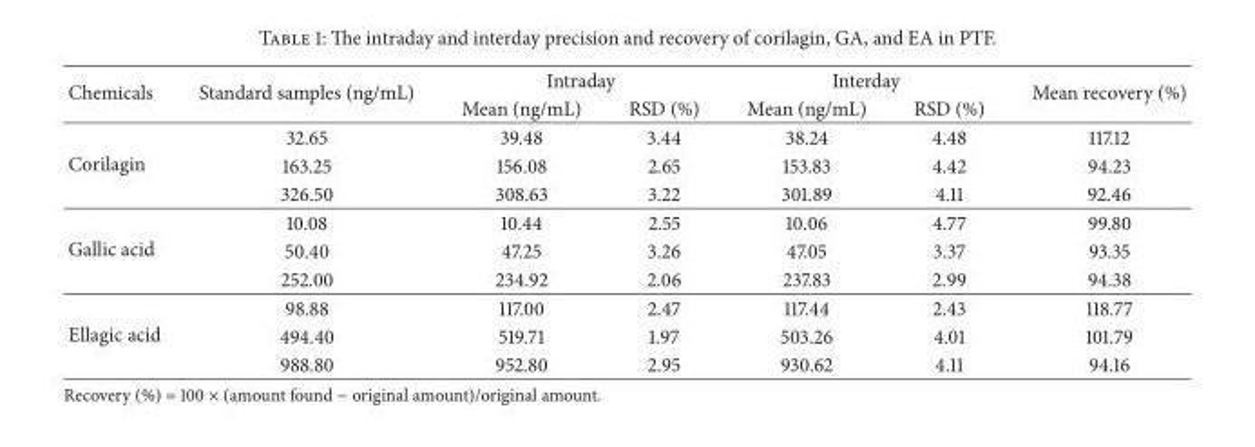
<table><thead><tr><td rowspan="2">Chemicals</td><td rowspan="2">Standard samples (ng/mL)</td><td colspan="2">Intraday</td><td colspan="2">Interday</td><td rowspan="2">Mean recovery (%)</td></tr><tr><td>Mean (ng/mL)</td><td>RSD (%)</td><td>Mean (ng/mL)</td><td>RSD (%)</td></tr></thead><tbody><tr><td rowspan="3">Corilagin</td><td>32.65</td><td>39.48</td><td>3.44</td><td>38.24</td><td>4.48</td><td>117.12</td></tr><tr><td>163.25</td><td>156.08</td><td>2.65</td><td>153.83</td><td>4.42</td><td>94.23</td></tr><tr><td>326.50</td><td>308.63</td><td>3.22</td><td>301.89</td><td>4.11</td><td>92.46</td></tr><tr><td rowspan="3">Gallic acid</td><td>10.08</td><td>10.44</td><td>2.55</td><td>10.06</td><td>4.77</td><td>99.80</td></tr><tr><td>50.40</td><td>47.25</td><td>3.26</td><td>47.05</td><td>3.37</td><td>93.35</td></tr><tr><td>252.00</td><td>234.92</td><td>2.06</td><td>237.83</td><td>2.99</td><td>94.38</td></tr><tr><td rowspan="3">Ellagic acid</td><td>98.88</td><td>117.00</td><td>2.47</td><td>117.44</td><td>2.43</td><td>118.77</td></tr><tr><td>494.40</td><td>519.71</td><td>1.97</td><td>503.26</td><td>4.01</td><td>101.79</td></tr><tr><td>988.80</td><td>952.80</td><td>2.95</td><td>930.62</td><td>4.11</td><td>94.16</td></tr></tbody></table>